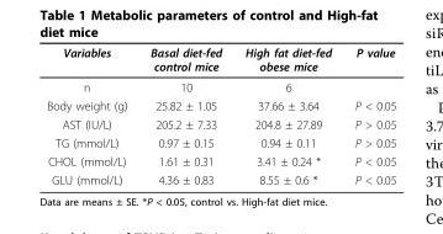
<table><thead><tr><td>Variables</td><td>Basal diet-fed control mice</td><td>High fat diet-fed obese mice</td><td>P value</td></tr></thead><tbody><tr><td>n</td><td>10</td><td>6</td><td></td></tr><tr><td>Body weight (g)</td><td>25.82 ± 1.05</td><td>37.66 ± 3.64</td><td>P &lt; 0.05</td></tr><tr><td>AST (IU/L)</td><td>205.2 ± 7.33</td><td>204.8 ± 27.89</td><td>P &gt; 0.05</td></tr><tr><td>TG (mmol/L)</td><td>0.97 ± 0.15</td><td>0.94 ± 0.11</td><td>P &gt; 0.05</td></tr><tr><td>CHOL (mmol/L)</td><td>1.61 ± 0.31</td><td>3.41 ± 0.24 *</td><td>P &lt; 0.05</td></tr><tr><td>GLU (mmol/L)</td><td>4.36 ± 0.83</td><td>8.55 ± 0.6 *</td><td>P &lt; 0.05</td></tr></tbody></table>